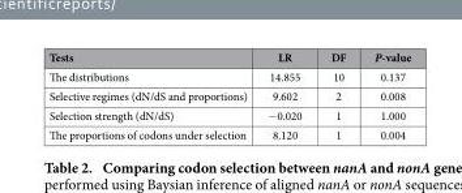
<table><thead><tr><td>Tests</td><td>LR</td><td>DF</td><td>P-value</td></tr></thead><tbody><tr><td>The distributions</td><td>14.855</td><td>10</td><td>0.137</td></tr><tr><td>Selective regimes (dN/dS and proportions)</td><td>9.602</td><td>2</td><td>0.008</td></tr><tr><td>Selection strength (dN/dS)</td><td>− 0.020</td><td>1</td><td>1.000</td></tr><tr><td>The proportions of codons under selection</td><td>8.120</td><td>1</td><td>0.004</td></tr></tbody></table>